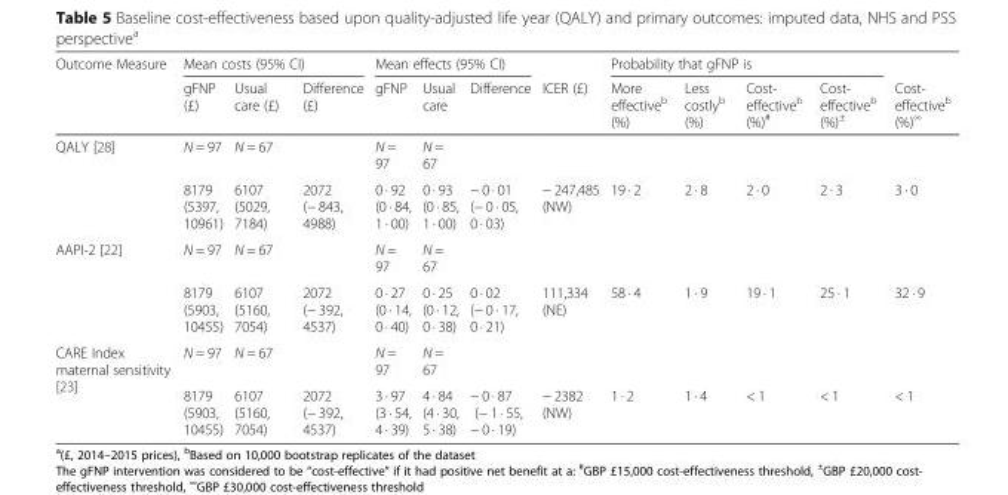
<table><thead><tr><td rowspan="2">Outcome Measure</td><td colspan="3">Mean costs (95% CI)</td><td colspan="3">Mean effects (95% CI)</td><td rowspan="2">ICER (£)</td><td colspan="4">Probability that gFNP is</td><td rowspan="2">Cost- effective<sup>b</sup> (%)<sup>∞</sup></td></tr><tr><td>gFNP (£)</td><td>Usual care (£)</td><td>Difference (£)</td><td>gFNP</td><td>Usual care</td><td>Difference</td><td>More effective<sup>b</sup> (%)</td><td>Less costly<sup>b</sup> (%)</td><td>Cost- effective<sup>b</sup> (%)<sup>#</sup></td><td>Cost- effective<sup>b</sup> (%)<sup>±</sup></td></tr></thead><tbody><tr><td rowspan="2">QALY [28]</td><td>N = 97</td><td>N = 67</td><td></td><td>N = 97</td><td>N = 67</td><td></td><td></td><td></td><td></td><td></td><td></td><td></td></tr><tr><td>8179 (5397, 10961)</td><td>6107 (5029, 7184)</td><td>2072 (− 843, 4988)</td><td>0 · 92 (0 · 84, 1 · 00)</td><td>0 · 93 (0 · 85, 1 · 00)</td><td>− 0 · 01 (− 0 · 05, 0 · 03)</td><td>− 247,485 (NW)</td><td>19 · 2</td><td>2 · 8</td><td>2 · 0</td><td>2 · 3</td><td>3 · 0</td></tr><tr><td rowspan="2">AAPI-2 [22]</td><td>N = 97</td><td>N = 67</td><td></td><td>N = 97</td><td>N = 67</td><td></td><td></td><td></td><td></td><td></td><td></td><td></td></tr><tr><td>8179 (5903, 10455)</td><td>6107 (5160, 7054)</td><td>2072 (− 392, 4537)</td><td>0 · 27 (0 · 14, 0 · 40)</td><td>0 · 25 (0 · 12, 0 · 38)</td><td>0 · 02 (− 0 · 17, 0 · 21)</td><td>111,334 (NE)</td><td>58 · 4</td><td>1 · 9</td><td>19 · 1</td><td>25 · 1</td><td>32 · 9</td></tr><tr><td rowspan="2">CARE Index maternal sensitivity [23]</td><td>N = 97</td><td>N = 67</td><td></td><td>N = 97</td><td>N = 67</td><td></td><td></td><td></td><td></td><td></td><td></td><td></td></tr><tr><td>8179 (5903, 10455)</td><td>6107 (5160, 7054)</td><td>2072 (− 392, 4537)</td><td>3 · 97 (3 · 54, 4 · 39)</td><td>4 · 84 (4 · 30, 5 · 38)</td><td>− 0 · 87 (− 1 · 55, − 0 · 19)</td><td>− 2382 (NW)</td><td>1 · 2</td><td>1 · 4</td><td>&lt; 1</td><td>&lt; 1</td><td>&lt; 1</td></tr></tbody></table>